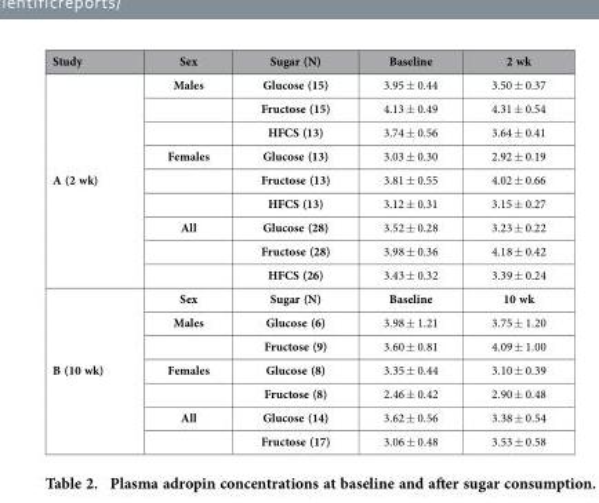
<table><thead><tr><td>Study</td><td>Sex</td><td>Sugar (N)</td><td>Baseline</td><td>2 wk</td></tr></thead><tbody><tr><td rowspan="9">A (2 wk)</td><td>Males</td><td>Glucose (15)</td><td>3.95 ± 0.44</td><td>3.50 ± 0.37</td></tr><tr><td></td><td>Fructose (15)</td><td>4.13 ± 0.49</td><td>4.31 ± 0.54</td></tr><tr><td></td><td>HFCS (13)</td><td>3.74 ± 0.56</td><td>3.64 ± 0.41</td></tr><tr><td>Females</td><td>Glucose (13)</td><td>3.03 ± 0.30</td><td>2.92 ± 0.19</td></tr><tr><td></td><td>Fructose (13)</td><td>3.81 ± 0.55</td><td>4.02 ± 0.66</td></tr><tr><td></td><td>HFCS (13)</td><td>3.12 ± 0.31</td><td>3.15 ± 0.27</td></tr><tr><td>All</td><td>Glucose (28)</td><td>3.52 ± 0.28</td><td>3.23 ± 0.22</td></tr><tr><td></td><td>Fructose (28)</td><td>3.98 ± 0.36</td><td>4.18 ± 0.42</td></tr><tr><td></td><td>HFCS (26)</td><td>3.43 ± 0.32</td><td>3.39 ± 0.24</td></tr><tr><td rowspan="7">B (10 wk)</td><td>Sex</td><td>Sugar (N)</td><td>Baseline</td><td>10 wk</td></tr><tr><td>Males</td><td>Glucose (6)</td><td>3.98 ± 1.21</td><td>3.75 ± 1.20</td></tr><tr><td></td><td>Fructose (9)</td><td>3.60 ± 0.81</td><td>4.09 ± 1.00</td></tr><tr><td>Females</td><td>Glucose (8)</td><td>3.35 ± 0.44</td><td>3.10 ± 0.39</td></tr><tr><td></td><td>Fructose (8)</td><td>2.46 ± 0.42</td><td>2.90 ± 0.48</td></tr><tr><td>All</td><td>Glucose (14)</td><td>3.62 ± 0.56</td><td>3.38 ± 0.54</td></tr><tr><td></td><td>Fructose (17)</td><td>3.06 ± 0.48</td><td>3.53 ± 0.58</td></tr></tbody></table>